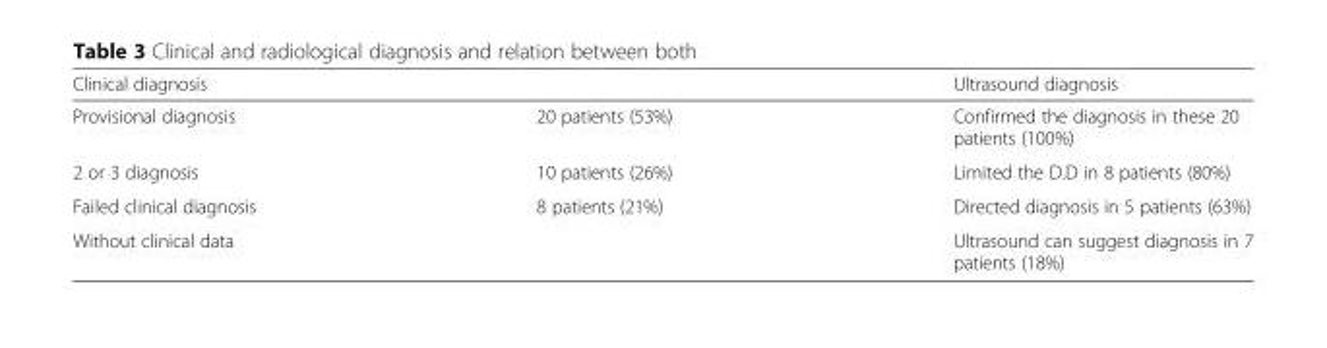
<table><thead><tr><td colspan="2">Clinical diagnosis</td><td rowspan="2">Ultrasound diagnosis Confirmed the diagnosis in these 20 patients (100%)</td></tr><tr><td>Provisional diagnosis</td><td>20 patients (53%)</td></tr></thead><tbody><tr><td>2 or 3 diagnosis</td><td>10 patients (26%)</td><td>Limited the D.D in 8 patients (80%)</td></tr><tr><td>Failed clinical diagnosis</td><td>8 patients (21%)</td><td>Directed diagnosis in 5 patients (63%)</td></tr><tr><td colspan="2">Without clinical data</td><td>Ultrasound can suggest diagnosis in 7 patients (18%)</td></tr></tbody></table>